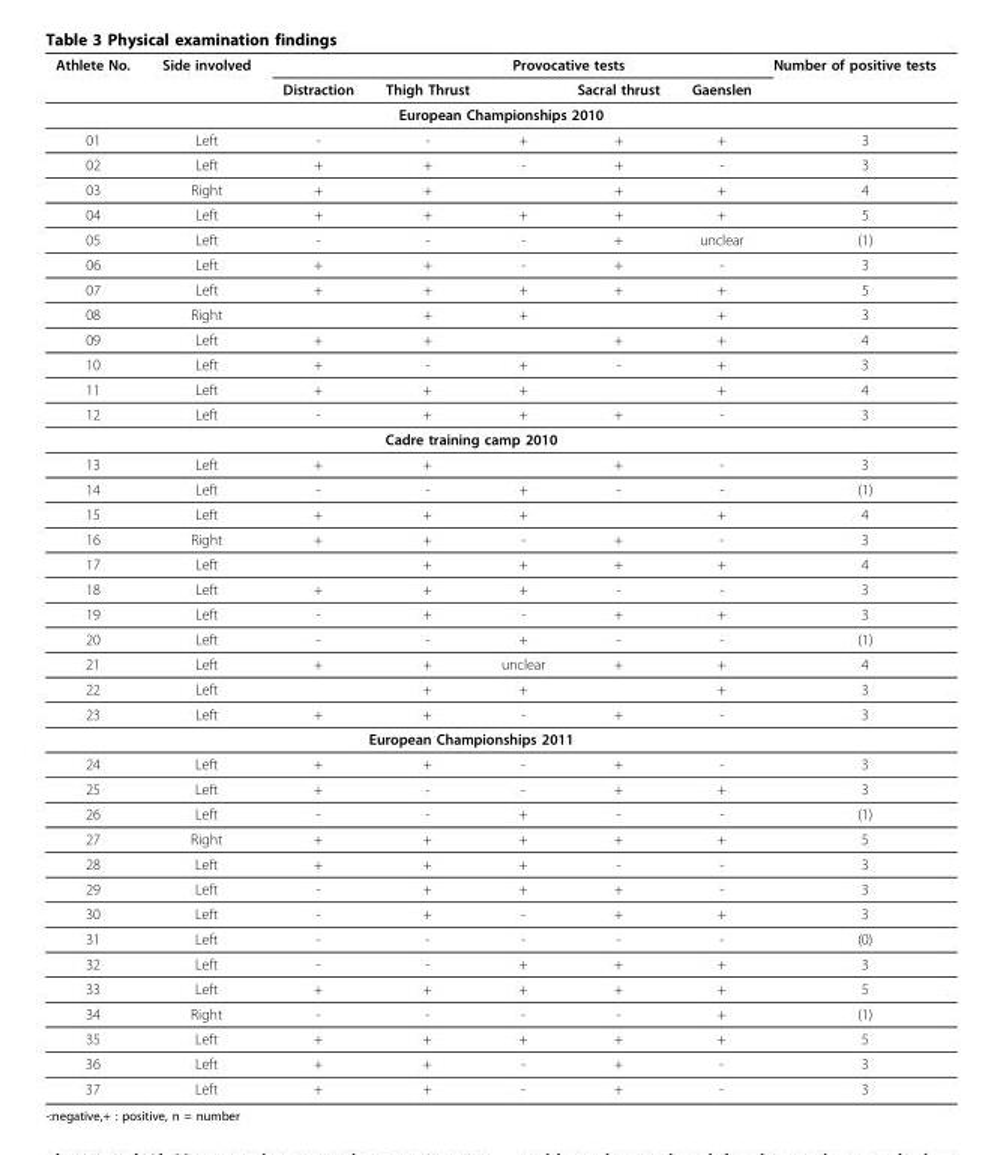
<table><thead><tr><td rowspan="2">Athlete No.</td><td rowspan="2">Side involved</td><td rowspan="2">Distraction</td><td colspan="4">Provocative tests</td><td rowspan="2">Number of positive tests</td></tr><tr><td>Thigh Thrust</td><td></td><td>Sacral thrust</td><td>Gaenslen</td></tr></thead><tbody><tr><td colspan="8">European Championships 2010</td></tr><tr><td>01</td><td>Left</td><td>-</td><td>-</td><td>+</td><td>+</td><td>+</td><td>3</td></tr><tr><td>02</td><td>Left</td><td>+</td><td>+</td><td>-</td><td>+</td><td>-</td><td>3</td></tr><tr><td>03</td><td>Right</td><td>+</td><td>+</td><td></td><td>+</td><td>+</td><td>4</td></tr><tr><td>04</td><td>Left</td><td>+</td><td>+</td><td>+</td><td>+</td><td>+</td><td>5</td></tr><tr><td>05</td><td>Left</td><td>-</td><td>-</td><td>-</td><td>+</td><td>unclear</td><td>(1)</td></tr><tr><td>06</td><td>Left</td><td>+</td><td>+</td><td>-</td><td>+</td><td>-</td><td>3</td></tr><tr><td>07</td><td>Left</td><td>+</td><td>+</td><td>+</td><td>+</td><td>+</td><td>5</td></tr><tr><td>08</td><td>Right</td><td></td><td>+</td><td>+</td><td></td><td>+</td><td>3</td></tr><tr><td>09</td><td>Left</td><td>+</td><td>+</td><td></td><td>+</td><td>+</td><td>4</td></tr><tr><td>10</td><td>Left</td><td>+</td><td>-</td><td>+</td><td>-</td><td>+</td><td>3</td></tr><tr><td>11</td><td>Left</td><td>+</td><td>+</td><td>+</td><td></td><td>+</td><td>4</td></tr><tr><td rowspan="2">12</td><td>Left</td><td>-</td><td>+</td><td>+</td><td>+</td><td>-</td><td>3</td></tr><tr><td></td><td colspan="4">Cadre training camp 2010</td><td></td><td></td></tr><tr><td>13</td><td>Left</td><td>+</td><td>+</td><td></td><td>+</td><td>-</td><td>3</td></tr><tr><td>14</td><td>Left</td><td>-</td><td>-</td><td>+</td><td>-</td><td>-</td><td>(1)</td></tr><tr><td>15</td><td>Left</td><td>+</td><td>+</td><td>+</td><td></td><td>+</td><td>4</td></tr><tr><td>16</td><td>Right</td><td>+</td><td>+</td><td>-</td><td>+</td><td>-</td><td>3</td></tr><tr><td>17</td><td>Left</td><td></td><td>+</td><td>+</td><td>+</td><td>+</td><td>4</td></tr><tr><td>18</td><td>Left</td><td>+</td><td>+</td><td>+</td><td>-</td><td>-</td><td>3</td></tr><tr><td>19</td><td>Left</td><td>-</td><td>+</td><td>-</td><td>+</td><td>+</td><td>3</td></tr><tr><td>20</td><td>Left</td><td>-</td><td>-</td><td>+</td><td>-</td><td>-</td><td>(1)</td></tr><tr><td>21</td><td>Left</td><td>+</td><td>+</td><td>unclear</td><td>+</td><td>+</td><td>4</td></tr><tr><td>22</td><td>Left</td><td></td><td>+</td><td>+</td><td></td><td>+</td><td>3</td></tr><tr><td rowspan="2">23</td><td>Left</td><td>+</td><td>+</td><td>-</td><td>+</td><td>-</td><td>3</td></tr><tr><td></td><td colspan="4">European Championships 2011</td><td></td><td></td></tr><tr><td>24</td><td>Left</td><td>+</td><td>+</td><td>-</td><td>+</td><td>-</td><td>3</td></tr><tr><td>25</td><td>Left</td><td>+</td><td>-</td><td>-</td><td>+</td><td>+</td><td>3</td></tr><tr><td>26</td><td>Left</td><td>-</td><td>-</td><td>+</td><td>-</td><td>-</td><td>(1)</td></tr><tr><td>27</td><td>Right</td><td>+</td><td>+</td><td>+</td><td>+</td><td>+</td><td>5</td></tr><tr><td>28</td><td>Left</td><td>+</td><td>+</td><td>+</td><td>-</td><td>-</td><td>3</td></tr><tr><td>29</td><td>Left</td><td>-</td><td>+</td><td>+</td><td>+</td><td>-</td><td>3</td></tr><tr><td>30</td><td>Left</td><td>-</td><td>+</td><td>-</td><td>+</td><td>+</td><td>3</td></tr><tr><td>31</td><td>Left</td><td>-</td><td>-</td><td>-</td><td>-</td><td>-</td><td>(0)</td></tr><tr><td>32</td><td>Left</td><td>-</td><td>-</td><td>+</td><td>+</td><td>+</td><td>3</td></tr><tr><td>33</td><td>Left</td><td>+</td><td>+</td><td>+</td><td>+</td><td>+</td><td>5</td></tr><tr><td>34</td><td>Right</td><td>-</td><td>-</td><td>-</td><td>-</td><td>+</td><td>(1)</td></tr><tr><td>35</td><td>Left</td><td>+</td><td>+</td><td>+</td><td>+</td><td>+</td><td>5</td></tr><tr><td>36</td><td>Left</td><td>+</td><td>+</td><td>-</td><td>+</td><td>-</td><td>3</td></tr><tr><td>37</td><td>Left</td><td>+</td><td>+</td><td>-</td><td>+</td><td>-</td><td>3</td></tr></tbody></table>